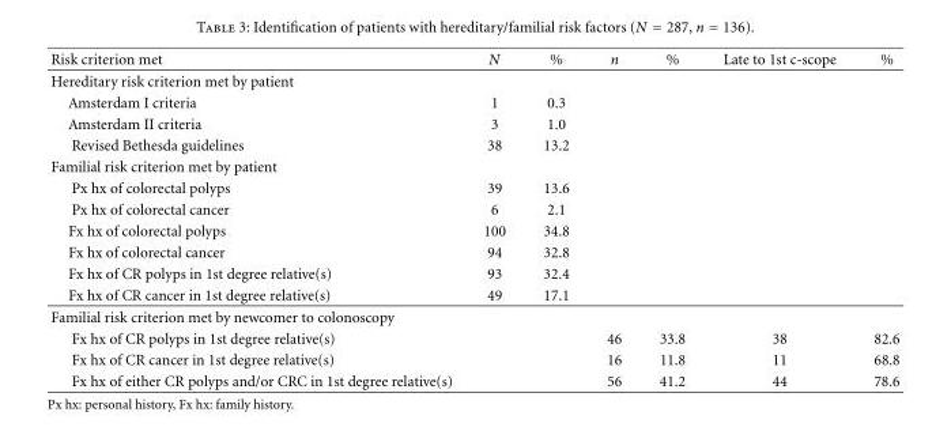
<table><thead><tr><td>Risk criterion met</td><td>N</td><td>%</td><td>n</td><td>%</td><td>Late to 1st c-scope</td><td>%</td></tr></thead><tbody><tr><td colspan="7">Hereditary risk criterion met by patient</td></tr><tr><td>Amsterdam I criteria</td><td>1</td><td>0.3</td><td></td><td></td><td></td><td></td></tr><tr><td>Amsterdam II criteria</td><td>3</td><td>1.0</td><td></td><td></td><td></td><td></td></tr><tr><td>Revised Bethesda guidelines</td><td>38</td><td>13.2</td><td></td><td></td><td></td><td></td></tr><tr><td colspan="7">Familial risk criterion met by patient</td></tr><tr><td>Px hx of colorectal polyps</td><td>39</td><td>13.6</td><td></td><td></td><td></td><td></td></tr><tr><td>Px hx of colorectal cancer</td><td>6</td><td>2.1</td><td></td><td></td><td></td><td></td></tr><tr><td>Fx hx of colorectal polyps</td><td>100</td><td>34.8</td><td></td><td></td><td></td><td></td></tr><tr><td>Fx hx of colorectal cancer</td><td>94</td><td>32.8</td><td></td><td></td><td></td><td></td></tr><tr><td>Fx hx of CR polyps in 1st degree relative(s)</td><td>93</td><td>32.4</td><td></td><td></td><td></td><td></td></tr><tr><td>Fx hx of CR cancer in 1st degree relative(s)</td><td>49</td><td>17.1</td><td></td><td></td><td></td><td></td></tr><tr><td colspan="7">Familial risk criterion met by newcomer to colonoscopy</td></tr><tr><td>Fx hx of CR polyps in 1st degree relative(s)</td><td></td><td></td><td>46</td><td>33.8</td><td>38</td><td>82.6</td></tr><tr><td>Fx hx of CR cancer in 1st degree relative(s)</td><td></td><td></td><td>16</td><td>11.8</td><td>11</td><td>68.8</td></tr><tr><td>Fx hx of either CR polyps and/or CRC in 1st degree relative(s)</td><td></td><td></td><td>56</td><td>41.2</td><td>44</td><td>78.6</td></tr></tbody></table>